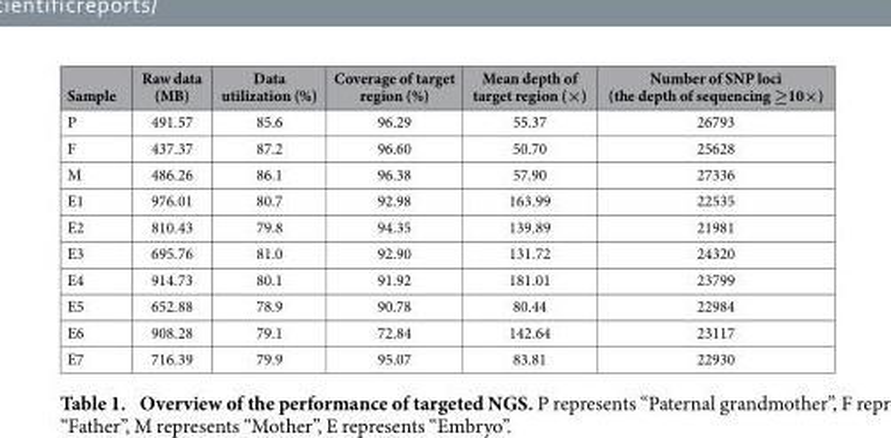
<table><thead><tr><td>Sample</td><td>Raw data (MB)</td><td>Data utilization (%)</td><td>Coverage of target region (%)</td><td>Mean depth of target region (×)</td><td>Number of SNP loci (the depth of sequencing ≥10×)</td></tr></thead><tbody><tr><td>P</td><td>491.57</td><td>85.6</td><td>96.29</td><td>55.37</td><td>26793</td></tr><tr><td>F</td><td>437.37</td><td>87.2</td><td>96.60</td><td>50.70</td><td>25628</td></tr><tr><td>M</td><td>486.26</td><td>86.1</td><td>96.38</td><td>57.90</td><td>27336</td></tr><tr><td>E1</td><td>976.01</td><td>80.7</td><td>92.98</td><td>163.99</td><td>22535</td></tr><tr><td>E2</td><td>810.43</td><td>79.8</td><td>94.35</td><td>139.89</td><td>21981</td></tr><tr><td>E3</td><td>695.76</td><td>81.0</td><td>92.90</td><td>131.72</td><td>24320</td></tr><tr><td>E4</td><td>914.73</td><td>80.1</td><td>91.92</td><td>181.01</td><td>23799</td></tr><tr><td>E5</td><td>652.88</td><td>78.9</td><td>90.78</td><td>80.44</td><td>22984</td></tr><tr><td>E6</td><td>908.28</td><td>79.1</td><td>72.84</td><td>142.64</td><td>23117</td></tr><tr><td>E7</td><td>716.39</td><td>79.9</td><td>95.07</td><td>83.81</td><td>22930</td></tr></tbody></table>